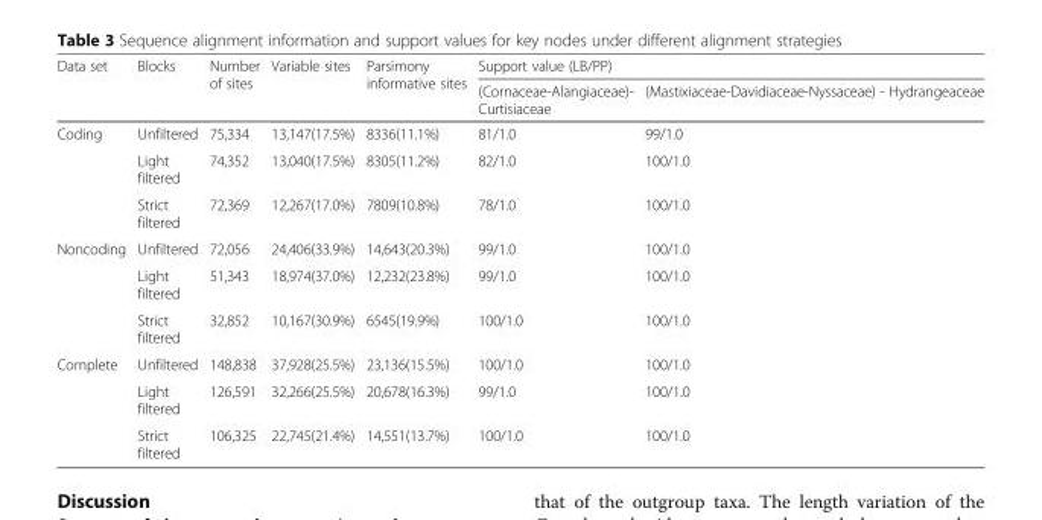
<table><thead><tr><td rowspan="2">Data set</td><td rowspan="2">Blocks</td><td rowspan="2">Number of sites</td><td rowspan="2">Variable sites</td><td rowspan="2">Parsimony informative sites</td><td colspan="2">Support value (LB/PP)</td></tr><tr><td>(Cornaceae-Alangiaceae)- Curtisiaceae</td><td>(Mastixiaceae-Davidiaceae-Nyssaceae) - Hydrangeaceae</td></tr></thead><tbody><tr><td rowspan="3">Coding</td><td>Unfiltered</td><td>75,334</td><td>13,147(17.5%)</td><td>8336(11.1%)</td><td>81/1.0</td><td>99/1.0</td></tr><tr><td>Light filtered</td><td>74,352</td><td>13,040(17.5%)</td><td>8305(11.2%)</td><td>82/1.0</td><td>100/1.0</td></tr><tr><td>Strict filtered</td><td>72,369</td><td>12,267(17.0%)</td><td>7809(10.8%)</td><td>78/1.0</td><td>100/1.0</td></tr><tr><td rowspan="3">Noncoding</td><td>Unfiltered</td><td>72,056</td><td>24,406(33.9%)</td><td>14,643(20.3%)</td><td>99/1.0</td><td>100/1.0</td></tr><tr><td>Light filtered</td><td>51,343</td><td>18,974(37.0%)</td><td>12,232(23.8%)</td><td>99/1.0</td><td>100/1.0</td></tr><tr><td>Strict filtered</td><td>32,852</td><td>10,167(30.9%)</td><td>6545(19.9%)</td><td>100/1.0</td><td>100/1.0</td></tr><tr><td rowspan="3">Complete</td><td>Unfiltered</td><td>148,838</td><td>37,928(25.5%)</td><td>23,136(15.5%)</td><td>100/1.0</td><td>100/1.0</td></tr><tr><td>Light filtered</td><td>126,591</td><td>32,266(25.5%)</td><td>20,678(16.3%)</td><td>99/1.0</td><td>100/1.0</td></tr><tr><td>Strict filtered</td><td>106,325</td><td>22,745(21.4%)</td><td>14,551(13.7%)</td><td>100/1.0</td><td>100/1.0</td></tr></tbody></table>